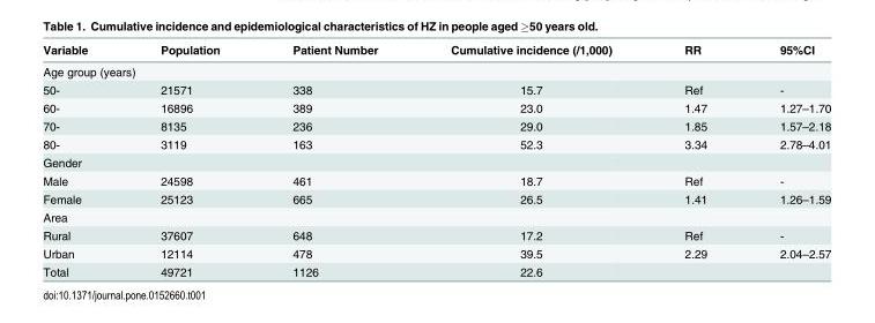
<table><thead><tr><td>Variable</td><td>Population</td><td>Patient Number</td><td>Cumulative incidence (/1,000)</td><td>RR</td><td>95%CI</td></tr></thead><tbody><tr><td colspan="6">Age group (years)</td></tr><tr><td>50-</td><td>21571</td><td>338</td><td>15.7</td><td>Ref</td><td>-</td></tr><tr><td>60-</td><td>16896</td><td>389</td><td>23.0</td><td>1.47</td><td>1.27–1.70</td></tr><tr><td>70-</td><td>8135</td><td>236</td><td>29.0</td><td>1.85</td><td>1.57–2.18</td></tr><tr><td>80-</td><td>3119</td><td>163</td><td>52.3</td><td>3.34</td><td>2.78–4.01</td></tr><tr><td colspan="6">Gender</td></tr><tr><td>Male</td><td>24598</td><td>461</td><td>18.7</td><td>Ref</td><td>-</td></tr><tr><td>Female</td><td>25123</td><td>665</td><td>26.5</td><td>1.41</td><td>1.26–1.59</td></tr><tr><td colspan="6">Area</td></tr><tr><td>Rural</td><td>37607</td><td>648</td><td>17.2</td><td>Ref</td><td>-</td></tr><tr><td>Urban</td><td>12114</td><td>478</td><td>39.5</td><td>2.29</td><td>2.04–2.57</td></tr><tr><td>Total</td><td>49721</td><td>1126</td><td>22.6</td><td></td><td></td></tr></tbody></table>